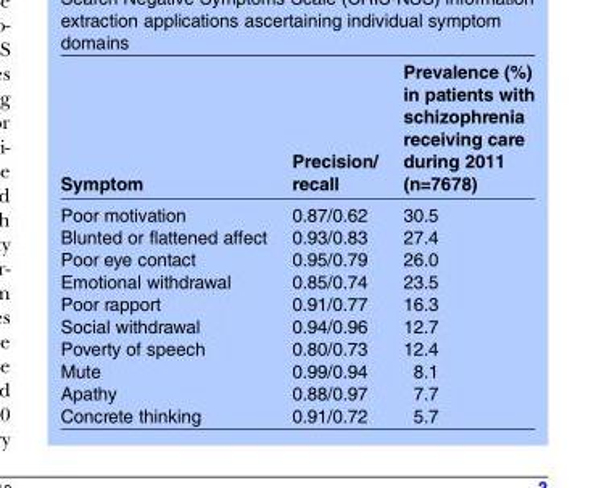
<table><thead><tr><td>Symptom</td><td>Precision/ recall</td><td>Prevalence (%) in patients with schizophrenia receiving care during 2011 (n=7678)</td></tr></thead><tbody><tr><td>Poor motivation</td><td>0.87/0.62</td><td>30.5</td></tr><tr><td>Blunted or flattened affect</td><td>0.93/0.83</td><td>27.4</td></tr><tr><td>Poor eye contact</td><td>0.95/0.79</td><td>26.0</td></tr><tr><td>Emotional withdrawal</td><td>0.85/0.74</td><td>23.5</td></tr><tr><td>Poor rapport</td><td>0.91/0.77</td><td>16.3</td></tr><tr><td>Social withdrawal</td><td>0.94/0.96</td><td>12.7</td></tr><tr><td>Poverty of speech</td><td>0.80/0.73</td><td>12.4</td></tr><tr><td>Mute</td><td>0.99/0.94</td><td>8.1</td></tr><tr><td>Apathy</td><td>0.88/0.97</td><td>7.7</td></tr><tr><td>Concrete thinking</td><td>0.91/0.72</td><td>5.7</td></tr></tbody></table>